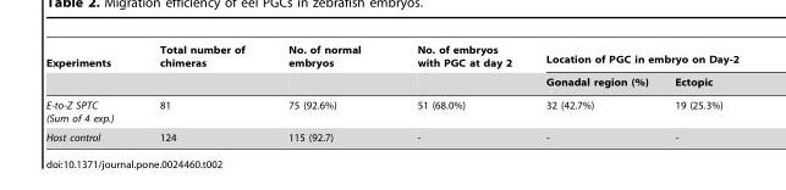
<table><thead><tr><td rowspan="2">Experiments</td><td rowspan="2">Total number of chimeras</td><td rowspan="2">No. of normal embryos</td><td rowspan="2">No. of embryos with PGC at day 2</td><td colspan="2">Location of PGC in embryo on Day-2</td></tr><tr><td>Gonadal region (%)</td><td>Ectopic</td></tr></thead><tbody><tr><td>E-to-Z SPTC (Sum of 4 exp.)</td><td>81</td><td>75 (92.6%)</td><td>51 (68.0%)</td><td>32 (42.7%)</td><td>19 (25.3%)</td></tr><tr><td>Host control</td><td>124</td><td>115 (92.7)</td><td>-</td><td>-</td><td>-</td></tr></tbody></table>